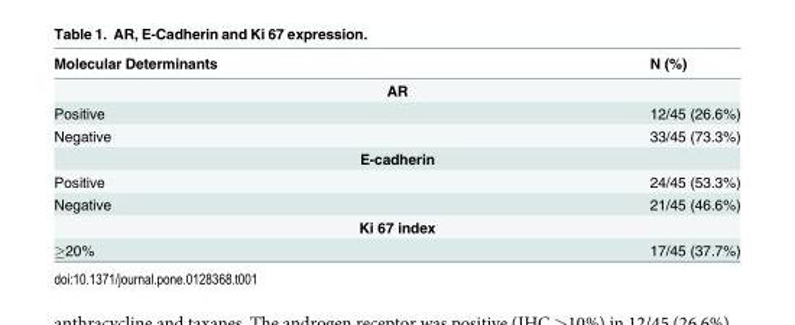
<table><thead><tr><td>Molecular Determinants</td><td>N (%)</td></tr></thead><tbody><tr><td colspan="2">AR</td></tr><tr><td>Positive</td><td>12/45 (26.6%)</td></tr><tr><td>Negative</td><td>33/45 (73.3%)</td></tr><tr><td colspan="2">E-cadherin</td></tr><tr><td>Positive</td><td>24/45 (53.3%)</td></tr><tr><td>Negative</td><td>21/45 (46.6%)</td></tr><tr><td colspan="2">Ki 67 index</td></tr><tr><td>≥20%</td><td>17/45 (37.7%)</td></tr></tbody></table>